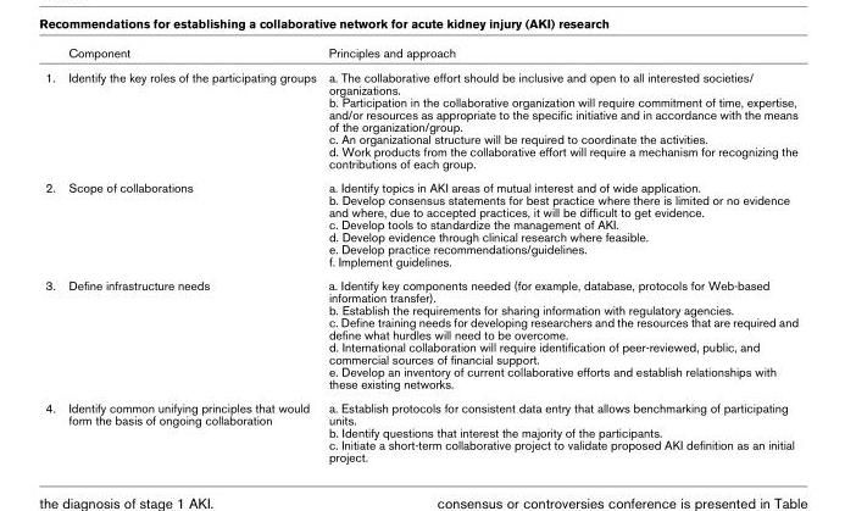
<table><thead><tr><td></td><td>Component</td><td>Principles and approach</td></tr></thead><tbody><tr><td>1.</td><td>Identify the key roles of the participating groups</td><td>a. The collaborative effort should be inclusive and open to all interested societies/ organizations. b. Participation in the collaborative organization will require commitment of time, expertise, and/or resources as appropriate to the specific initiative and in accordance with the means of the organization/group. c. An organizational structure will be required to coordinate the activities. d. Work products from the collaborative effort will require a mechanism for recognizing the contributions of each group.</td></tr><tr><td>2.</td><td>Scope of collaborations</td><td>a. Identify topics in AKI areas of mutual interest and of wide application. b. Develop consensus statements for best practice where there is limited or no evidence and where, due to accepted practices, it will be difficult to get evidence. c. Develop tools to standardize the management of AKI. d. Develop evidence through clinical research where feasible. e. Develop practice recommendations/guidelines. f. Implement guidelines.</td></tr><tr><td>3.</td><td>Define infrastructure needs</td><td>a. Identify key components needed (for example, database, protocols for Web-based information transfer). b. Establish the requirements for sharing information with regulatory agencies. c. Define training needs for developing researchers and the resources that are required and define what hurdles will need to be overcome. d. International collaboration will require identification of peer-reviewed, public, and commercial sources of financial support. e. Develop an inventory of current collaborative efforts and establish relationships with these existing networks.</td></tr><tr><td>4.</td><td>Identify common unifying principles that would form the basis of ongoing collaboration</td><td>a. Establish protocols for consistent data entry that allows benchmarking of participating units. b. Identify questions that interest the majority of the participants. c. Initiate a short-term collaborative project to validate proposed AKI definition as an initial project.</td></tr></tbody></table>